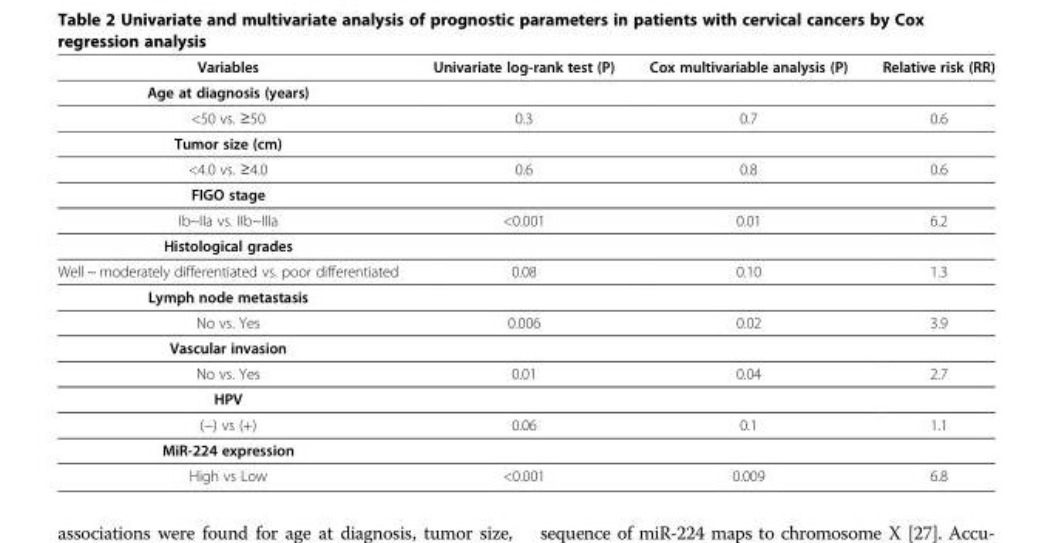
<table><thead><tr><td>Variables</td><td>Univariate log-rank test (P)</td><td>Cox multivariable analysis (P)</td><td>Relative risk (RR)</td></tr></thead><tbody><tr><td colspan="4">Age at diagnosis (years)</td></tr><tr><td>&lt;50 vs. ≥50</td><td>0.3</td><td>0.7</td><td>0.6</td></tr><tr><td colspan="4">Tumor size (cm)</td></tr><tr><td>&lt;4.0 vs. ≥4.0</td><td>0.6</td><td>0.8</td><td>0.6</td></tr><tr><td colspan="4">FIGO stage</td></tr><tr><td>Ib~IIa vs. IIb~IIIa</td><td>&lt;0.001</td><td>0.01</td><td>6.2</td></tr><tr><td colspan="4">Histological grades</td></tr><tr><td>Well ~ moderately differentiated vs. poor differentiated</td><td>0.08</td><td>0.10</td><td>1.3</td></tr><tr><td colspan="4">Lymph node metastasis</td></tr><tr><td>No vs. Yes</td><td>0.006</td><td>0.02</td><td>3.9</td></tr><tr><td colspan="4">Vascular invasion</td></tr><tr><td>No vs. Yes</td><td>0.01</td><td>0.04</td><td>2.7</td></tr><tr><td colspan="4">HPV</td></tr><tr><td>(−) vs (+)</td><td>0.06</td><td>0.1</td><td>1.1</td></tr><tr><td colspan="4">MiR-224 expression</td></tr><tr><td>High vs Low</td><td>&lt;0.001</td><td>0.009</td><td>6.8</td></tr></tbody></table>